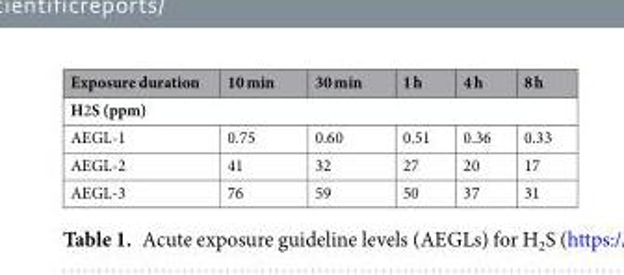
<table><thead><tr><td>Exposure duration</td><td>10 min</td><td>30 min</td><td>1 h</td><td>4 h</td><td>8 h</td></tr></thead><tbody><tr><td colspan="6">H<sub>2</sub>S (ppm)</td></tr><tr><td>AEGL-1</td><td>0.75</td><td>0.60</td><td>0.51</td><td>0.36</td><td>0.33</td></tr><tr><td>AEGL-2</td><td>41</td><td>32</td><td>27</td><td>20</td><td>17</td></tr><tr><td>AEGL-3</td><td>76</td><td>59</td><td>50</td><td>37</td><td>31</td></tr></tbody></table>